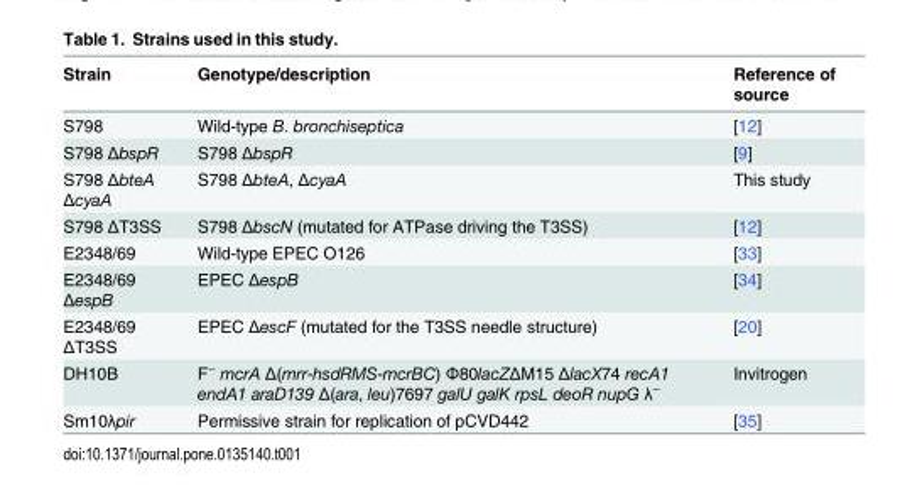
<table><thead><tr><td>Strain</td><td>Genotype/description</td><td>Reference of source</td></tr></thead><tbody><tr><td>S798</td><td>Wild-type B. bronchiseptica</td><td>[12]</td></tr><tr><td>S798 ΔbspR</td><td>S798 ΔbspR</td><td>[9]</td></tr><tr><td>S798 ΔbteA ΔcyaA</td><td>S798 ΔbteA, ΔcyaA</td><td>This study</td></tr><tr><td>S798 ΔT3SS</td><td>S798 ΔbscN (mutated for ATPase driving the T3SS)</td><td>[12]</td></tr><tr><td>E2348/69</td><td>Wild-type EPEC O126</td><td>[33]</td></tr><tr><td>E2348/69 ΔespB</td><td>EPEC ΔespB</td><td>[34]</td></tr><tr><td>E2348/69 ΔT3SS</td><td>EPEC ΔescF (mutated for the T3SS needle structure)</td><td>[20]</td></tr><tr><td>DH10B</td><td>F<sup>−</sup> mcrA Δ(mrr-hsdRMS-mcrBC) Φ80lacZΔM15 ΔlacX74 recA1 endA1 araD139 Δ(ara, leu)7697 galU galK rpsL deoR nupG λ<sup>−</sup></td><td>Invitrogen</td></tr><tr><td>Sm10λpir</td><td>Permissive strain for replication of pCVD442</td><td>[35]</td></tr></tbody></table>